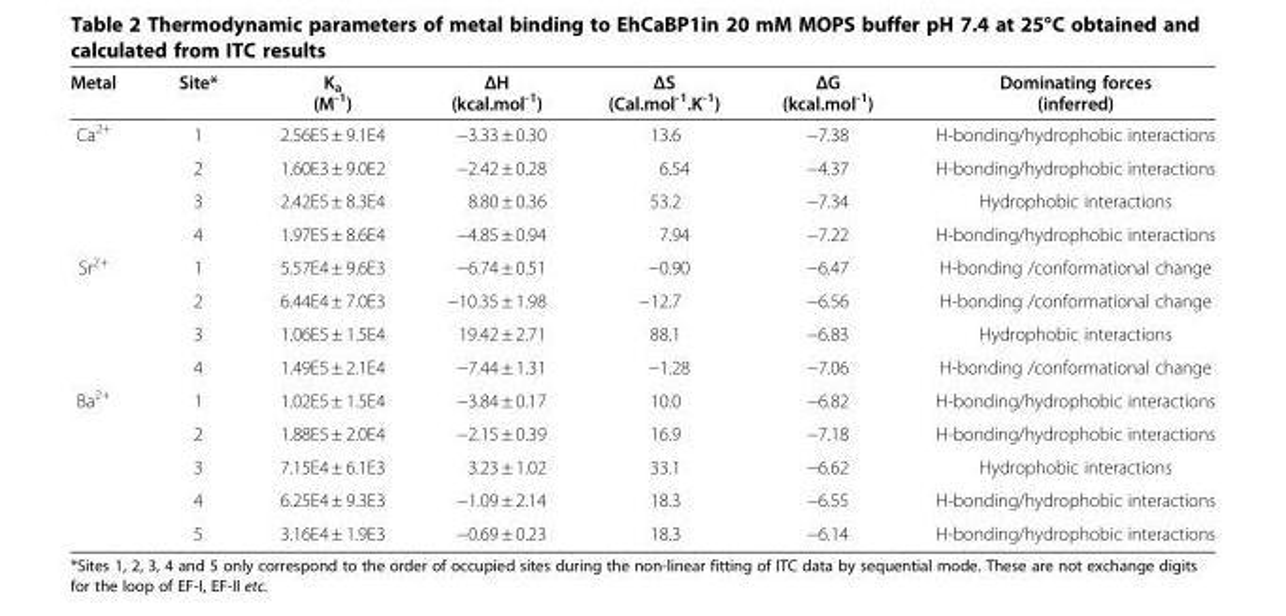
<table><thead><tr><td>Metal</td><td>Site*</td><td>K<sub>a</sub> (M<sup>-1</sup>)</td><td>ΔH (kcal.mol<sup>-1</sup>)</td><td>ΔS (Cal.mol<sup>-1</sup>.K<sup>-1</sup>)</td><td>ΔG (kcal.mol<sup>-1</sup>)</td><td>Dominating forces (inferred)</td></tr></thead><tbody><tr><td rowspan="4">Ca<sup>2+</sup></td><td>1</td><td>2.56E5 ± 9.1E4</td><td>−3.33 ± 0.30</td><td>13.6</td><td>−7.38</td><td>H-bonding/hydrophobic interactions</td></tr><tr><td>2</td><td>1.60E3 ± 9.0E2</td><td>−2.42 ± 0.28</td><td>6.54</td><td>−4.37</td><td>H-bonding/hydrophobic interactions</td></tr><tr><td>3</td><td>2.42E5 ± 8.3E4</td><td>8.80 ± 0.36</td><td>53.2</td><td>−7.34</td><td>Hydrophobic interactions</td></tr><tr><td>4</td><td>1.97E5 ± 8.6E4</td><td>−4.85 ± 0.94</td><td>7.94</td><td>−7.22</td><td>H-bonding/hydrophobic interactions</td></tr><tr><td rowspan="4">Sr<sup>2+</sup></td><td>1</td><td>5.57E4 ± 9.6E3</td><td>−6.74 ± 0.51</td><td>−0.90</td><td>−6.47</td><td>H-bonding /conformational change</td></tr><tr><td>2</td><td>6.44E4 ± 7.0E3</td><td>−10.35 ± 1.98</td><td>−12.7</td><td>−6.56</td><td>H-bonding /conformational change</td></tr><tr><td>3</td><td>1.06E5 ± 1.5E4</td><td>19.42 ± 2.71</td><td>88.1</td><td>−6.83</td><td>Hydrophobic interactions</td></tr><tr><td>4</td><td>1.49E5 ± 2.1E4</td><td>−7.44 ± 1.31</td><td>−1.28</td><td>−7.06</td><td>H-bonding /conformational change</td></tr><tr><td rowspan="5">Ba<sup>2+</sup></td><td>1</td><td>1.02E5 ± 1.5E4</td><td>−3.84 ± 0.17</td><td>10.0</td><td>−6.82</td><td>H-bonding/hydrophobic interactions</td></tr><tr><td>2</td><td>1.88E5 ± 2.0E4</td><td>−2.15 ± 0.39</td><td>16.9</td><td>−7.18</td><td>H-bonding/hydrophobic interactions</td></tr><tr><td>3</td><td>7.15E4 ± 6.1E3</td><td>3.23 ± 1.02</td><td>33.1</td><td>−6.62</td><td>Hydrophobic interactions</td></tr><tr><td>4</td><td>6.25E4 ± 9.3E3</td><td>−1.09 ± 2.14</td><td>18.3</td><td>−6.55</td><td>H-bonding/hydrophobic interactions</td></tr><tr><td>5</td><td>3.16E4 ± 1.9E3</td><td>−0.69 ± 0.23</td><td>18.3</td><td>−6.14</td><td>H-bonding/hydrophobic interactions</td></tr></tbody></table>